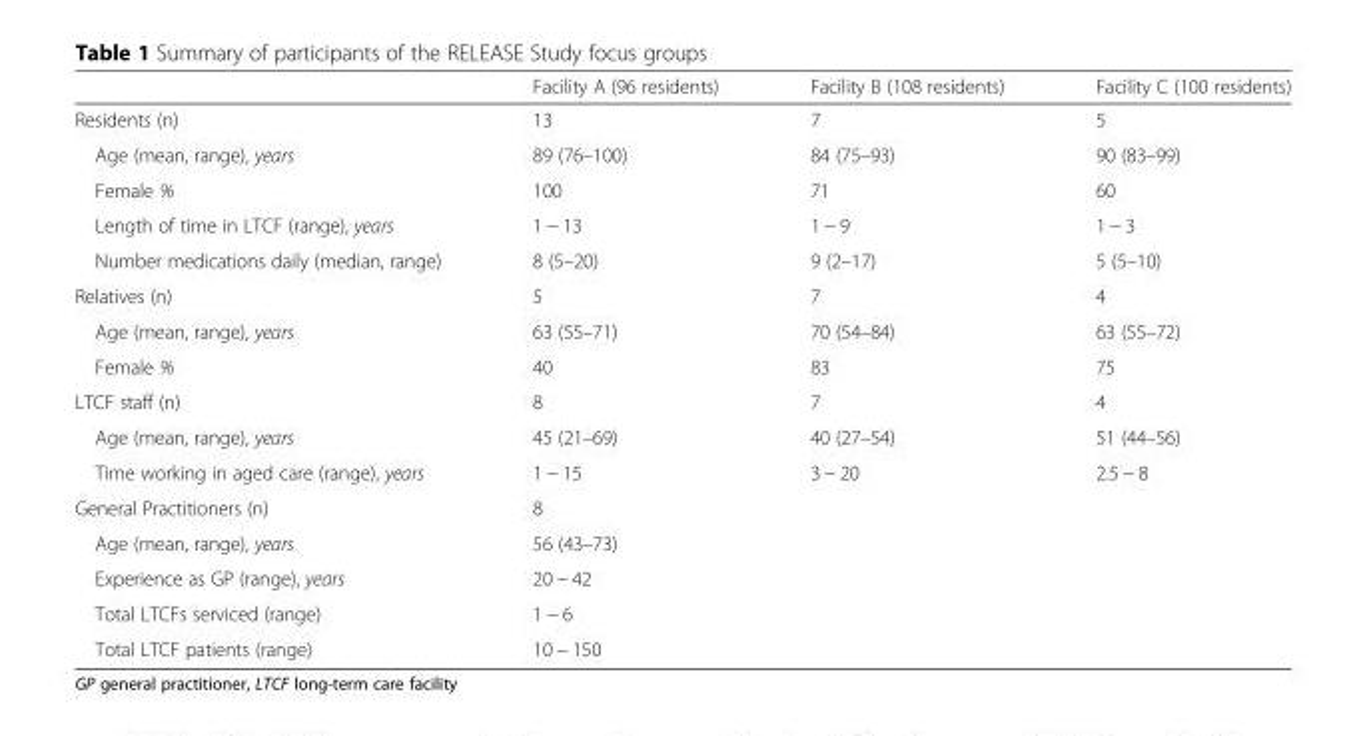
<table><thead><tr><td></td><td>Facility A (96 residents)</td><td>Facility B (108 residents)</td><td>Facility C (100 residents)</td></tr></thead><tbody><tr><td>Residents (n)</td><td>13</td><td>7</td><td>5</td></tr><tr><td>Age (mean, range), years</td><td>89 (76–100)</td><td>84 (75–93)</td><td>90 (83–99)</td></tr><tr><td>Female %</td><td>100</td><td>71</td><td>60</td></tr><tr><td>Length of time in LTCF (range), years</td><td>1 − 13</td><td>1 − 9</td><td>1 − 3</td></tr><tr><td>Number medications daily (median, range)</td><td>8 (5–20)</td><td>9 (2–17)</td><td>5 (5–10)</td></tr><tr><td>Relatives (n)</td><td>5</td><td>7</td><td>4</td></tr><tr><td>Age (mean, range), years</td><td>63 (55–71)</td><td>70 (54–84)</td><td>63 (55–72)</td></tr><tr><td>Female %</td><td>40</td><td>83</td><td>75</td></tr><tr><td>LTCF staff (n)</td><td>8</td><td>7</td><td>4</td></tr><tr><td>Age (mean, range), years</td><td>45 (21–69)</td><td>40 (27–54)</td><td>51 (44–56)</td></tr><tr><td>Time working in aged care (range), years</td><td>1 − 15</td><td>3 − 20</td><td>2.5 − 8</td></tr><tr><td>General Practitioners (n)</td><td>8</td><td></td><td></td></tr><tr><td>Age (mean, range), years</td><td>56 (43–73)</td><td></td><td></td></tr><tr><td>Experience as GP (range), years</td><td>20 − 42</td><td></td><td></td></tr><tr><td>Total LTCFs serviced (range)</td><td>1 − 6</td><td></td><td></td></tr><tr><td>Total LTCF patients (range)</td><td>10 − 150</td><td></td><td></td></tr></tbody></table>